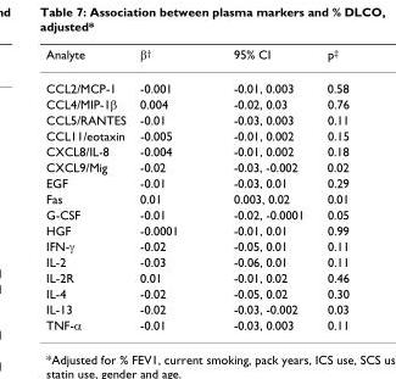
<table><thead><tr><td>Analyte</td><td>β<sup>†</sup></td><td>95% CI</td><td>p<sup>‡</sup></td></tr></thead><tbody><tr><td>CCL2/MCP-1</td><td>-0.001</td><td>-0.01, 0.003</td><td>0.58</td></tr><tr><td>CCL4/MIP-1β</td><td>0.004</td><td>-0.02, 0.03</td><td>0.76</td></tr><tr><td>CCL5/RANTES</td><td>-0.01</td><td>-0.03, 0.003</td><td>0.11</td></tr><tr><td>CCL11/eotaxin</td><td>-0.005</td><td>-0.01, 0.002</td><td>0.15</td></tr><tr><td>CXCL8/IL-8</td><td>-0.004</td><td>-0.01, 0.002</td><td>0.18</td></tr><tr><td>CXCL9/Mig</td><td>-0.02</td><td>-0.03, -0.002</td><td>0.02</td></tr><tr><td>EGF</td><td>-0.01</td><td>-0.03, 0.01</td><td>0.29</td></tr><tr><td>Fas</td><td>0.01</td><td>0.003, 0.02</td><td>0.01</td></tr><tr><td>G-CSF</td><td>-0.01</td><td>-0.02, -0.0001</td><td>0.05</td></tr><tr><td>HGF</td><td>-0.0001</td><td>-0.01, 0.01</td><td>0.99</td></tr><tr><td>IFN-γ</td><td>-0.02</td><td>-0.05, 0.01</td><td>0.11</td></tr><tr><td>IL-2</td><td>-0.03</td><td>-0.06, 0.01</td><td>0.11</td></tr><tr><td>IL-2R</td><td>0.01</td><td>-0.01, 0.02</td><td>0.46</td></tr><tr><td>IL-4</td><td>-0.02</td><td>-0.05, 0.02</td><td>0.30</td></tr><tr><td>IL-13</td><td>-0.02</td><td>-0.03, -0.002</td><td>0.03</td></tr><tr><td>TNF-α</td><td>-0.01</td><td>-0.03, 0.003</td><td>0.11</td></tr></tbody></table>